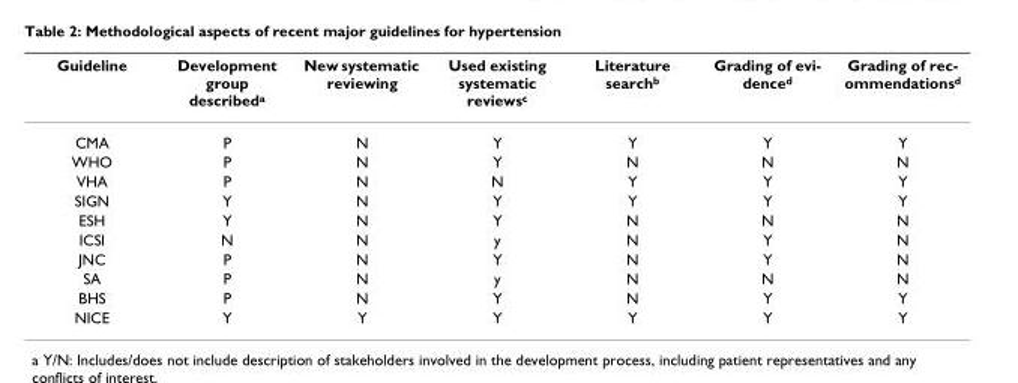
<table><thead><tr><td>Guideline</td><td>Development group describeda</td><td>New systematic reviewing</td><td>Used existing systematic reviewsc</td><td>Literature searchb</td><td>Grading of evi- denced</td><td>Grading of rec- ommendationsd</td></tr></thead><tbody><tr><td>CMA</td><td>P</td><td>N</td><td>Y</td><td>Y</td><td>Y</td><td>Y</td></tr><tr><td>WHO</td><td>P</td><td>N</td><td>Y</td><td>N</td><td>N</td><td>N</td></tr><tr><td>VHA</td><td>P</td><td>N</td><td>N</td><td>Y</td><td>Y</td><td>Y</td></tr><tr><td>SIGN</td><td>Y</td><td>N</td><td>Y</td><td>Y</td><td>Y</td><td>Y</td></tr><tr><td>ESH</td><td>Y</td><td>N</td><td>Y</td><td>N</td><td>N</td><td>N</td></tr><tr><td>ICSI</td><td>N</td><td>N</td><td>y</td><td>N</td><td>Y</td><td>N</td></tr><tr><td>JNC</td><td>P</td><td>N</td><td>Y</td><td>N</td><td>Y</td><td>N</td></tr><tr><td>SA</td><td>P</td><td>N</td><td>y</td><td>N</td><td>N</td><td>N</td></tr><tr><td>BHS</td><td>P</td><td>N</td><td>Y</td><td>N</td><td>Y</td><td>Y</td></tr><tr><td>NICE</td><td>Y</td><td>Y</td><td>Y</td><td>Y</td><td>Y</td><td>Y</td></tr></tbody></table>